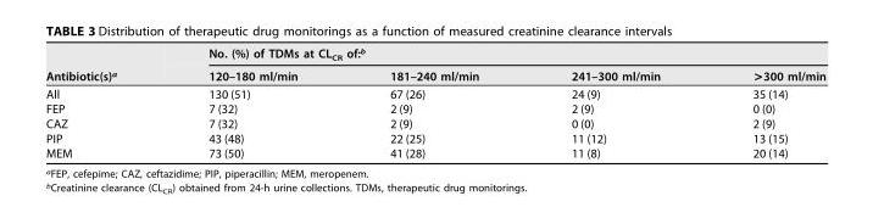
<table><thead><tr><td rowspan="2">Antibiotic(s)<sup>a</sup></td><td colspan="4">No. (%) of TDMs at CL<sub>CR</sub> of:<sup>b</sup></td></tr><tr><td>120–180 ml/min</td><td>181–240 ml/min</td><td>241–300 ml/min</td><td>&gt;300 ml/min</td></tr></thead><tbody><tr><td>All</td><td>130 (51)</td><td>67 (26)</td><td>24 (9)</td><td>35 (14)</td></tr><tr><td>FEP</td><td>7 (32)</td><td>2 (9)</td><td>2 (9)</td><td>0 (0)</td></tr><tr><td>CAZ</td><td>7 (32)</td><td>2 (9)</td><td>0 (0)</td><td>2 (9)</td></tr><tr><td>PIP</td><td>43 (48)</td><td>22 (25)</td><td>11 (12)</td><td>13 (15)</td></tr><tr><td>MEM</td><td>73 (50)</td><td>41 (28)</td><td>11 (8)</td><td>20 (14)</td></tr></tbody></table>